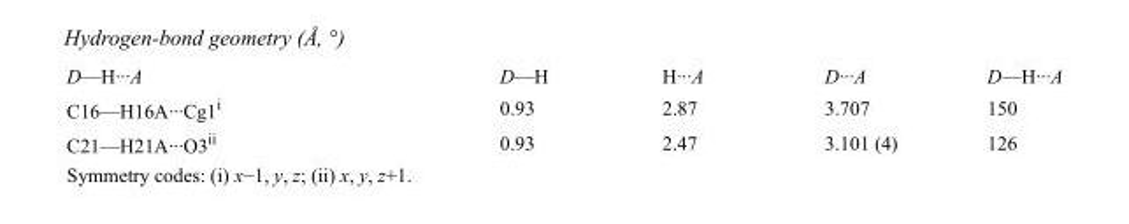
<table><tbody><tr><td>D—H···A</td><td>D—H</td><td>H···A</td><td>D···A</td><td>D—H···A</td></tr><tr><td>C16—H16A···Cg1<sup>i</sup></td><td>0.93</td><td>2.87</td><td>3.707</td><td>150</td></tr><tr><td>C21—H21A···O3<sup>ii</sup></td><td>0.93</td><td>2.47</td><td>3.101 (4)</td><td>126</td></tr></tbody></table>